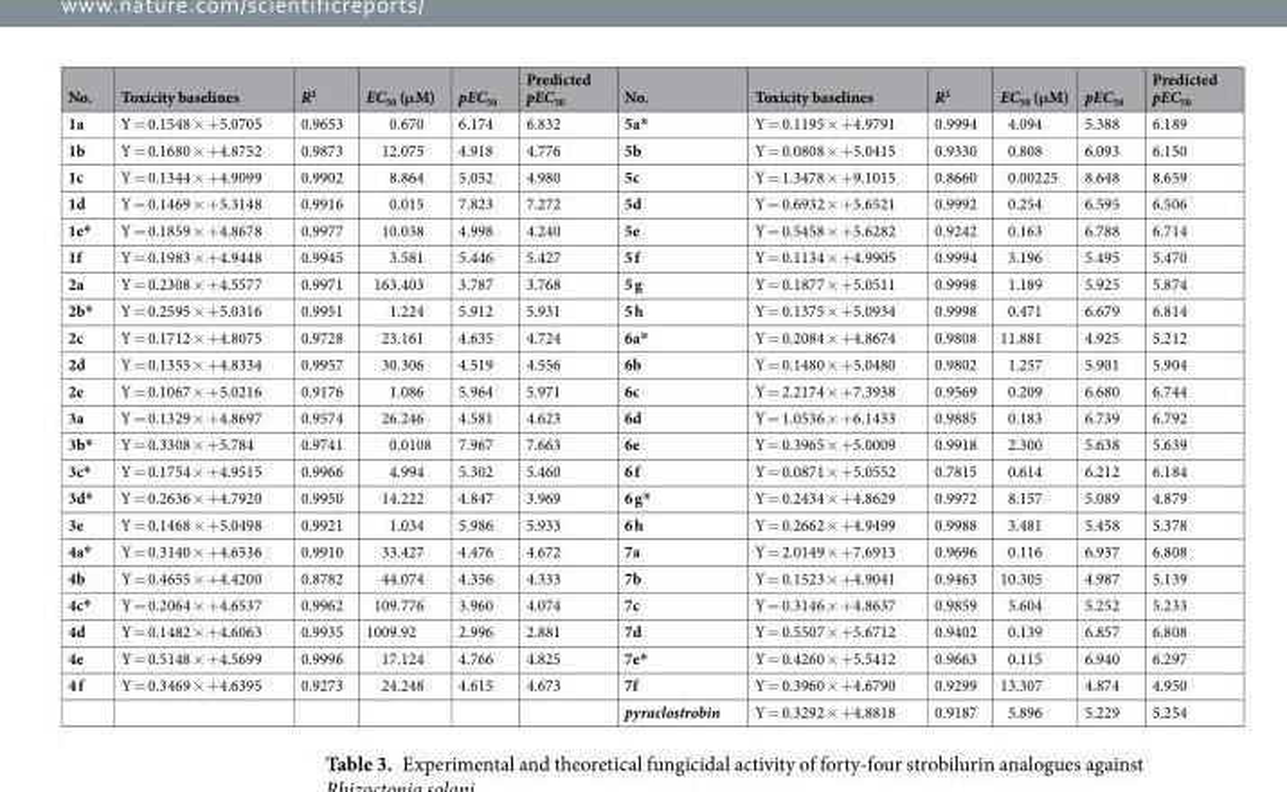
<table><thead><tr><td>No.</td><td>Toxicity baselines</td><td>R<sup>2</sup></td><td>EC<sub>50</sub> (μM)</td><td>pEC<sub>50</sub></td><td>Predicted pEC<sub>50</sub></td><td>No.</td><td>Toxicity baselines</td><td>R<sup>2</sup></td><td>EC<sub>50</sub> (μM)</td><td>pEC<sub>50</sub></td><td>Predicted pEC<sub>50</sub></td></tr></thead><tbody><tr><td>1a</td><td>Y = 0.1548 × +5.0705</td><td>0.9653</td><td>0.670</td><td>6.174</td><td>6.832</td><td>5a*</td><td>Y = 0.1195 × +4.9791</td><td>0.9994</td><td>4.094</td><td>5.388</td><td>6.189</td></tr><tr><td>1b</td><td>Y = 0.1680 × +4.8752</td><td>0.9873</td><td>12.075</td><td>4.918</td><td>4.776</td><td>5b</td><td>Y = 0.0808 × +5.0415</td><td>0.9330</td><td>0.808</td><td>6.093</td><td>6.150</td></tr><tr><td>1c</td><td>Y = 0.1344 × +4.9099</td><td>0.9902</td><td>8.864</td><td>5.052</td><td>4.980</td><td>5c</td><td>Y = 1.3478 × +9.1015</td><td>0.8660</td><td>0.00225</td><td>8.648</td><td>8.659</td></tr><tr><td>1d</td><td>Y = 0.1469 × +5.3148</td><td>0.9916</td><td>0.015</td><td>7.823</td><td>7.272</td><td>5d</td><td>Y = 0.6932 × +5.6521</td><td>0.9992</td><td>0.254</td><td>6.595</td><td>6.506</td></tr><tr><td>1e*</td><td>Y = 0.1859 × +4.8678</td><td>0.9977</td><td>10.038</td><td>4.998</td><td>4.240</td><td>5e</td><td>Y = 0.5458 × +5.6282</td><td>0.9242</td><td>0.163</td><td>6.788</td><td>6.714</td></tr><tr><td>1f</td><td>Y = 0.1983 × +4.9448</td><td>0.9945</td><td>3.581</td><td>5.446</td><td>5.427</td><td>5 f</td><td>Y = 0.1134 × +4.9905</td><td>0.9994</td><td>3.196</td><td>5.495</td><td>5.470</td></tr><tr><td>2a</td><td>Y = 0.2308 × +4.5577</td><td>0.9971</td><td>163.403</td><td>3.787</td><td>3.768</td><td>5 g</td><td>Y = 0.1877 × +5.0511</td><td>0.9998</td><td>1.189</td><td>5.925</td><td>5.874</td></tr><tr><td>2b*</td><td>Y = 0.2595 × +5.0316</td><td>0.9951</td><td>1.224</td><td>5.912</td><td>5.931</td><td>5 h</td><td>Y = 0.1375 × +5.0934</td><td>0.9998</td><td>0.471</td><td>6.679</td><td>6.814</td></tr><tr><td>2c</td><td>Y = 0.1712 × +4.8075</td><td>0.9728</td><td>23.161</td><td>4.635</td><td>4.724</td><td>6a*</td><td>Y = 0.2084 × +4.8674</td><td>0.9808</td><td>11.881</td><td>4.925</td><td>5.212</td></tr><tr><td>2d</td><td>Y = 0.1355 × +4.8334</td><td>0.9957</td><td>30.306</td><td>4.519</td><td>4.556</td><td>6b</td><td>Y = 0.1480 × +5.0480</td><td>0.9802</td><td>1.257</td><td>5.901</td><td>5.904</td></tr><tr><td>2e</td><td>Y = 0.1067 × +5.0216</td><td>0.9176</td><td>1.086</td><td>5.964</td><td>5.971</td><td>6c</td><td>Y = 2.2174 × +7.3938</td><td>0.9569</td><td>0.209</td><td>6.680</td><td>6.744</td></tr><tr><td>3a</td><td>Y = 0.1329 × +4.8697</td><td>0.9574</td><td>26.246</td><td>4.581</td><td>4.623</td><td>6d</td><td>Y = 1.0536 × +6.1433</td><td>0.9885</td><td>0.183</td><td>6.739</td><td>6.792</td></tr><tr><td>3b*</td><td>Y = 0.3308 × +5.784</td><td>0.9741</td><td>0.0108</td><td>7.967</td><td>7.663</td><td>6e</td><td>Y = 0.3965 × +5.0009</td><td>0.9918</td><td>2.300</td><td>5.638</td><td>5.639</td></tr><tr><td>3c*</td><td>Y = 0.1754 × +4.9515</td><td>0.9966</td><td>4.994</td><td>5.302</td><td>5.460</td><td>6 f</td><td>Y = 0.0871 × +5.0552</td><td>0.7815</td><td>0.614</td><td>6.212</td><td>6.184</td></tr><tr><td>3d*</td><td>Y = 0.2636 × +4.7920</td><td>0.9950</td><td>14.222</td><td>4.847</td><td>3.969</td><td>6 g*</td><td>Y = 0.2434 × +4.8629</td><td>0.9972</td><td>8.157</td><td>5.089</td><td>4.879</td></tr><tr><td>3e</td><td>Y = 0.1468 × +5.0498</td><td>0.9921</td><td>1.034</td><td>5.986</td><td>5.933</td><td>6 h</td><td>Y = 0.2662 × +4.9499</td><td>0.9988</td><td>3.481</td><td>5.458</td><td>5.378</td></tr><tr><td>4a*</td><td>Y = 0.3140 × +4.6536</td><td>0.9910</td><td>33.427</td><td>4.476</td><td>4.672</td><td>7a</td><td>Y = 2.0149 × +7.6913</td><td>0.9696</td><td>0.116</td><td>6.937</td><td>6.808</td></tr><tr><td>4b</td><td>Y = 0.4655 × +4.4200</td><td>0.8782</td><td>44.074</td><td>4.356</td><td>4.333</td><td>7b</td><td>Y = 0.1523 × +4.9041</td><td>0.9463</td><td>10.305</td><td>4.987</td><td>5.139</td></tr><tr><td>4c*</td><td>Y = 0.2064 × +4.6537</td><td>0.9962</td><td>109.776</td><td>3.960</td><td>4.074</td><td>7c</td><td>Y = 0.3146 × +4.8637</td><td>0.9859</td><td>5.604</td><td>5.252</td><td>5.233</td></tr><tr><td>4d</td><td>Y = 0.1482 × +4.6063</td><td>0.9935</td><td>1009.92</td><td>2.996</td><td>2.881</td><td>7d</td><td>Y = 0.5507 × +5.6712</td><td>0.9402</td><td>0.139</td><td>6.857</td><td>6.808</td></tr><tr><td>4e</td><td>Y = 0.5148 × +4.5699</td><td>0.9996</td><td>17.124</td><td>4.766</td><td>4.825</td><td>7e*</td><td>Y = 0.4260 × +5.5412</td><td>0.9663</td><td>0.115</td><td>6.940</td><td>6.297</td></tr><tr><td rowspan="2">4 f</td><td>Y = 0.3469 × +4.6395</td><td>0.9273</td><td>24.248</td><td>4.615</td><td>4.673</td><td>7f</td><td>Y = 0.3960 × +4.6790</td><td>0.9299</td><td>13.307</td><td>4.874</td><td>4.950</td></tr><tr><td></td><td></td><td></td><td></td><td></td><td>pyraclostrobin</td><td>Y = 0.3292 × +4.8818</td><td>0.9187</td><td>5.896</td><td>5.229</td><td>5.254</td></tr></tbody></table>